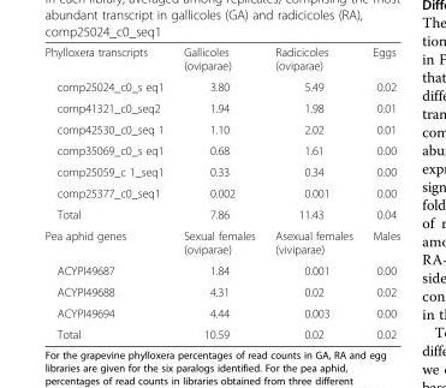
<table><tbody><tr><td>Phylloxera transcripts</td><td>Gallicoles (oviparae)</td><td>Radicicoles (oviparae)</td><td>Eggs</td></tr><tr><td>comp25024_c0_s eq1</td><td>3.80</td><td>5.49</td><td>0.02</td></tr><tr><td>comp41321_c0_seq2</td><td>1.94</td><td>1.98</td><td>0.01</td></tr><tr><td>comp42530_c0_seq 1</td><td>1.10</td><td>2.02</td><td>0.01</td></tr><tr><td>comp35069_c0_s eq1</td><td>0.68</td><td>1.61</td><td>0.00</td></tr><tr><td>comp25059_c 1_seq1</td><td>0.33</td><td>0.34</td><td>0.00</td></tr><tr><td>comp25377_c0_seq1</td><td>0.002</td><td>0.001</td><td>0.00</td></tr><tr><td>Total</td><td>7.86</td><td>11.43</td><td>0.04</td></tr><tr><td>Pea aphid genes</td><td>Sexual females (oviparae)</td><td>Asexual females (viviparae)</td><td>Males</td></tr><tr><td>ACYPI49687</td><td>1.84</td><td>0.001</td><td>0.00</td></tr><tr><td>ACYPI49688</td><td>4.31</td><td>0.02</td><td>0.02</td></tr><tr><td>ACYPI49694</td><td>4.44</td><td>0.003</td><td>0.00</td></tr><tr><td>Total</td><td>10.59</td><td>0.02</td><td>0.02</td></tr></tbody></table>